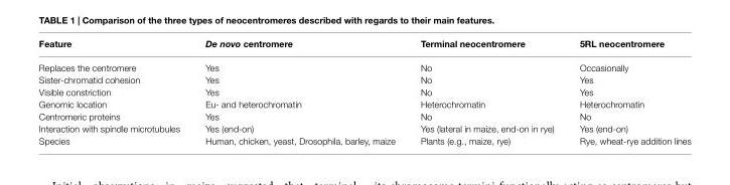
<table><thead><tr><td>Feature</td><td>De novo centromere</td><td>Terminal neocentromere</td><td>5RL neocentromere</td></tr></thead><tbody><tr><td>Replaces the centromere</td><td>Yes</td><td>No</td><td>Occasionally</td></tr><tr><td>Sister-chromatid cohesion</td><td>Yes</td><td>No</td><td>Yes</td></tr><tr><td>Visible constriction</td><td>Yes</td><td>No</td><td>Yes</td></tr><tr><td>Genomic location</td><td>Eu- and heterochromatin</td><td>Heterochromatin</td><td>Heterochromatin</td></tr><tr><td>Centromeric proteins</td><td>Yes</td><td>No</td><td>No</td></tr><tr><td>Interaction with spindle microtubules</td><td>Yes (end-on)</td><td>Yes (lateral in maize, end-on in rye)</td><td>Yes (end-on)</td></tr><tr><td>Species</td><td>Human, chicken, yeast, Drosophila, barley, maize</td><td>Plants (e.g., maize, rye)</td><td>Rye, wheat-rye addition lines</td></tr></tbody></table>